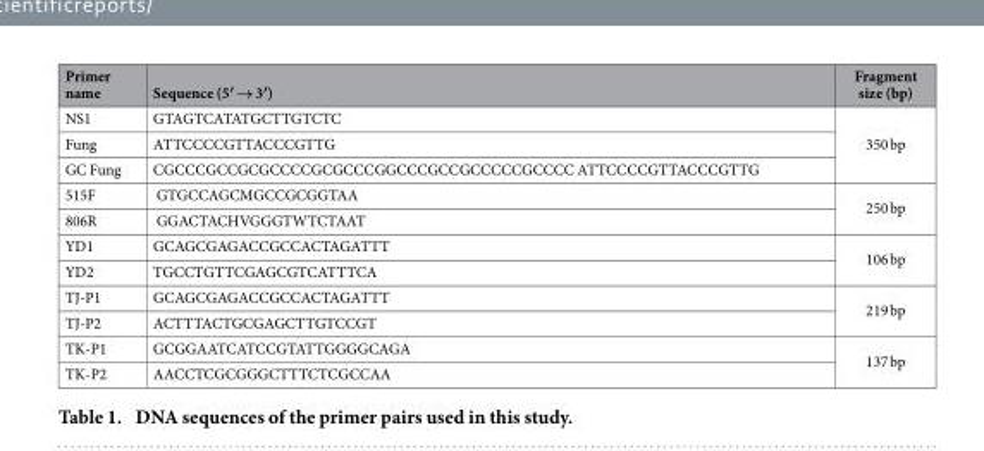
<table><thead><tr><td>Primer name</td><td>Sequence (5′ → 3′)</td><td>Fragment size (bp)</td></tr></thead><tbody><tr><td>NS1</td><td>GTAGTCATATGCTTGTCTC</td><td rowspan="3">350 bp</td></tr><tr><td>Fung</td><td>ATTCCCCGTTACCCGTTG</td></tr><tr><td>GC Fung</td><td>CGCCCGCCGCGCCCCGCGCCCGGCCCGCCGCCCCCGCCCC ATTCCCCGTTACCCGTTG</td></tr><tr><td>515F</td><td>GTGCCAGCMGCCGCGGTAA</td><td rowspan="2">250 bp</td></tr><tr><td>806R</td><td>GGACTACHVGGGTWTCTAAT</td></tr><tr><td>YD1</td><td>GCAGCGAGACCGCCACTAGATTT</td><td rowspan="2">106 bp</td></tr><tr><td>YD2</td><td>TGCCTGTTCGAGCGTCATTTCA</td></tr><tr><td>TJ-P1</td><td>GCAGCGAGACCGCCACTAGATTT</td><td rowspan="2">219 bp</td></tr><tr><td>TJ-P2</td><td>ACTTTACTGCGAGCTTGTCCGT</td></tr><tr><td>TK-P1</td><td>GCGGAATCATCCGTATTGGGGCAGA</td><td rowspan="2">137 bp</td></tr><tr><td>TK-P2</td><td>AACCTCGCGGGCTTTCTCGCCAA</td></tr></tbody></table>